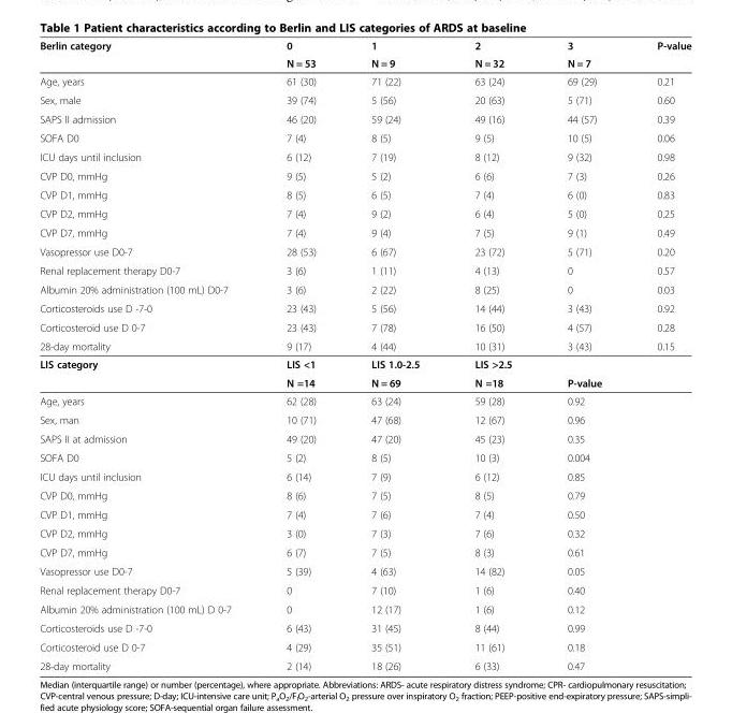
<table><thead><tr><td rowspan="2">Berlin category</td><td rowspan="2">0 N = 53</td><td rowspan="2">1 N = 9</td><td rowspan="2">2 N = 32</td><td rowspan="2">3 N = 7</td><td rowspan="2">P-value</td></tr><tr></tr></thead><tbody><tr><td>Age, years</td><td>61 (30)</td><td>71 (22)</td><td>63 (24)</td><td>69 (29)</td><td>0.21</td></tr><tr><td>Sex, male</td><td>39 (74)</td><td>5 (56)</td><td>20 (63)</td><td>5 (71)</td><td>0.60</td></tr><tr><td>SAPS II admission</td><td>46 (20)</td><td>59 (24)</td><td>49 (16)</td><td>44 (57)</td><td>0.39</td></tr><tr><td>SOFA D0</td><td>7 (4)</td><td>8 (5)</td><td>9 (5)</td><td>10 (5)</td><td>0.06</td></tr><tr><td>ICU days until inclusion</td><td>6 (12)</td><td>7 (19)</td><td>8 (12)</td><td>9 (32)</td><td>0.98</td></tr><tr><td>CVP D0, mmHg</td><td>9 (5)</td><td>5 (2)</td><td>6 (6)</td><td>7 (3)</td><td>0.26</td></tr><tr><td>CVP D1, mmHg</td><td>8 (5)</td><td>6 (5)</td><td>7 (4)</td><td>6 (0)</td><td>0.83</td></tr><tr><td>CVP D2, mmHg</td><td>7 (4)</td><td>9 (2)</td><td>6 (4)</td><td>5 (0)</td><td>0.25</td></tr><tr><td>CVP D7, mmHg</td><td>7 (4)</td><td>9 (4)</td><td>7 (5)</td><td>9 (1)</td><td>0.49</td></tr><tr><td>Vasopressor use D0-7</td><td>28 (53)</td><td>6 (67)</td><td>23 (72)</td><td>5 (71)</td><td>0.20</td></tr><tr><td>Renal replacement therapy D0-7</td><td>3 (6)</td><td>1 (11)</td><td>4 (13)</td><td>0</td><td>0.57</td></tr><tr><td>Albumin 20% administration (100 mL) D0-7</td><td>3 (6)</td><td>2 (22)</td><td>8 (25)</td><td>0</td><td>0.03</td></tr><tr><td>Corticosteroids use D -7-0</td><td>23 (43)</td><td>5 (56)</td><td>14 (44)</td><td>3 (43)</td><td>0.92</td></tr><tr><td>Corticosteroid use D 0-7</td><td>23 (43)</td><td>7 (78)</td><td>16 (50)</td><td>4 (57)</td><td>0.28</td></tr><tr><td>28-day mortality</td><td>9 (17)</td><td>4 (44)</td><td>10 (31)</td><td>3 (43)</td><td>0.15</td></tr><tr><td rowspan="2">LIS category</td><td>LIS &lt;1</td><td>LIS 1.0-2.5</td><td>LIS &gt;2.5</td><td></td><td></td></tr><tr><td>N =14</td><td>N = 69</td><td>N =18</td><td>P-value</td><td></td></tr><tr><td>Age, years</td><td>62 (28)</td><td>63 (24)</td><td>59 (28)</td><td>0.92</td><td></td></tr><tr><td>Sex, man</td><td>10 (71)</td><td>47 (68)</td><td>12 (67)</td><td>0.96</td><td></td></tr><tr><td>SAPS II at admission</td><td>49 (20)</td><td>47 (20)</td><td>45 (23)</td><td>0.35</td><td></td></tr><tr><td>SOFA D0</td><td>5 (2)</td><td>8 (5)</td><td>10 (3)</td><td>0.004</td><td></td></tr><tr><td>ICU days until inclusion</td><td>6 (14)</td><td>7 (9)</td><td>6 (12)</td><td>0.85</td><td></td></tr><tr><td>CVP D0, mmHg</td><td>8 (6)</td><td>7 (5)</td><td>8 (5)</td><td>0.79</td><td></td></tr><tr><td>CVP D1, mmHg</td><td>7 (4)</td><td>7 (6)</td><td>7 (4)</td><td>0.50</td><td></td></tr><tr><td>CVP D2, mmHg</td><td>3 (0)</td><td>7 (3)</td><td>7 (6)</td><td>0.32</td><td></td></tr><tr><td>CVP D7, mmHg</td><td>6 (7)</td><td>7 (5)</td><td>8 (3)</td><td>0.61</td><td></td></tr><tr><td>Vasopressor use D0-7</td><td>5 (39)</td><td>4 (63)</td><td>14 (82)</td><td>0.05</td><td></td></tr><tr><td>Renal replacement therapy D0-7</td><td>0</td><td>7 (10)</td><td>1 (6)</td><td>0.40</td><td></td></tr><tr><td>Albumin 20% administration (100 mL) D 0-7</td><td>0</td><td>12 (17)</td><td>1 (6)</td><td>0.12</td><td></td></tr><tr><td>Corticosteroids use D -7-0</td><td>6 (43)</td><td>31 (45)</td><td>8 (44)</td><td>0.99</td><td></td></tr><tr><td>Corticosteroid use D 0-7</td><td>4 (29)</td><td>35 (51)</td><td>11 (61)</td><td>0.18</td><td></td></tr><tr><td>28-day mortality</td><td>2 (14)</td><td>18 (26)</td><td>6 (33)</td><td>0.47</td><td></td></tr></tbody></table>